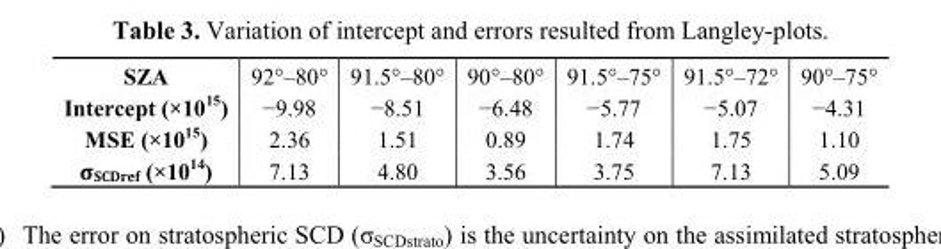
<table><thead><tr><td>SZA</td><td>92°–80°</td><td>91.5°–80°</td><td>90°–80°</td><td>91.5°–75°</td><td>91.5°–72°</td><td>90°–75°</td></tr></thead><tbody><tr><td>Intercept (×10<sup>15</sup>)</td><td>−9.98</td><td>−8.51</td><td>−6.48</td><td>−5.77</td><td>−5.07</td><td>−4.31</td></tr><tr><td>MSE (×10<sup>15</sup>)</td><td>2.36</td><td>1.51</td><td>0.89</td><td>1.74</td><td>1.75</td><td>1.10</td></tr><tr><td>σ<sub>SCDref</sub> (×10<sup>14</sup>)</td><td>7.13</td><td>4.80</td><td>3.56</td><td>3.75</td><td>7.13</td><td>5.09</td></tr></tbody></table>